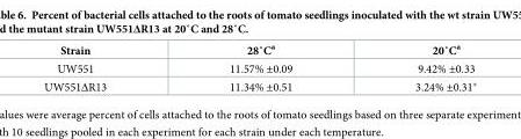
<table><thead><tr><td>Strain</td><td>28˚Ca</td><td>20˚Ca</td></tr></thead><tbody><tr><td>UW551</td><td>11.57% ±0.09</td><td>9.42% ±0.33</td></tr><tr><td>UW551ΔR13</td><td>11.34% ±0.51</td><td>3.24% ±0.31*</td></tr></tbody></table>